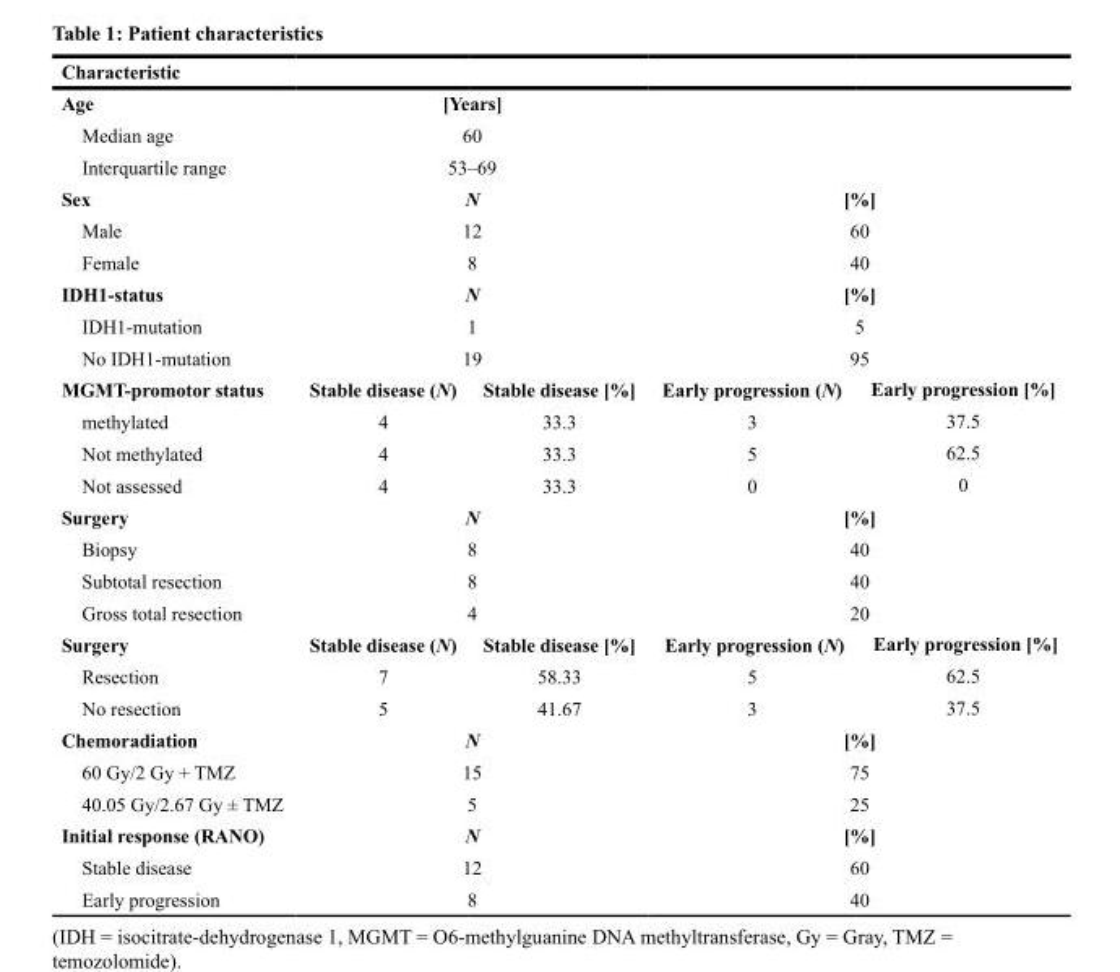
<table><thead><tr><td colspan="5">Characteristic</td></tr></thead><tbody><tr><td>Age</td><td colspan="2">[Years]</td><td colspan="2"></td></tr><tr><td>Median age</td><td colspan="2">60</td><td colspan="2"></td></tr><tr><td>Interquartile range</td><td colspan="2">53–69</td><td colspan="2"></td></tr><tr><td>Sex</td><td colspan="2">N</td><td colspan="2">[%]</td></tr><tr><td>Male</td><td colspan="2">12</td><td colspan="2">60</td></tr><tr><td>Female</td><td colspan="2">8</td><td colspan="2">40</td></tr><tr><td>IDH1-status</td><td colspan="2">N</td><td colspan="2">[%]</td></tr><tr><td>IDH1-mutation</td><td colspan="2">1</td><td colspan="2">5</td></tr><tr><td>No IDH1-mutation</td><td colspan="2">19</td><td colspan="2">95</td></tr><tr><td>MGMT-promotor status</td><td>Stable disease (N)</td><td>Stable disease [%]</td><td>Early progression (N)</td><td>Early progression [%]</td></tr><tr><td>methylated</td><td>4</td><td>33.3</td><td>3</td><td>37.5</td></tr><tr><td>Not methylated</td><td>4</td><td>33.3</td><td>5</td><td>62.5</td></tr><tr><td>Not assessed</td><td>4</td><td>33.3</td><td>0</td><td>0</td></tr><tr><td>Surgery</td><td colspan="2">N</td><td colspan="2">[%]</td></tr><tr><td>Biopsy</td><td colspan="2">8</td><td colspan="2">40</td></tr><tr><td>Subtotal resection</td><td colspan="2">8</td><td colspan="2">40</td></tr><tr><td>Gross total resection</td><td colspan="2">4</td><td colspan="2">20</td></tr><tr><td>Surgery</td><td>Stable disease (N)</td><td>Stable disease [%]</td><td>Early progression (N)</td><td>Early progression [%]</td></tr><tr><td>Resection</td><td>7</td><td>58.33</td><td>5</td><td>62.5</td></tr><tr><td>No resection</td><td>5</td><td>41.67</td><td>3</td><td>37.5</td></tr><tr><td>Chemoradiation</td><td colspan="2">N</td><td colspan="2">[%]</td></tr><tr><td>60 Gy/2 Gy + TMZ</td><td colspan="2">15</td><td colspan="2">75</td></tr><tr><td>40.05 Gy/2.67 Gy ± TMZ</td><td colspan="2">5</td><td colspan="2">25</td></tr><tr><td>Initial response (RANO)</td><td colspan="2">N</td><td colspan="2">[%]</td></tr><tr><td>Stable disease</td><td colspan="2">12</td><td colspan="2">60</td></tr><tr><td>Early progression</td><td colspan="2">8</td><td colspan="2">40</td></tr></tbody></table>